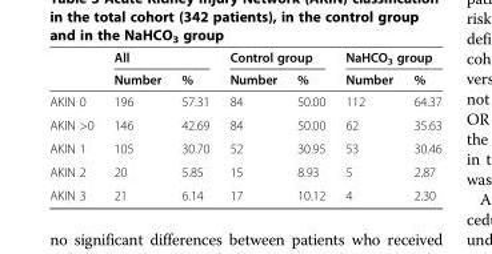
<table><thead><tr><td rowspan="2"></td><td colspan="2">All</td><td colspan="2">Control group</td><td colspan="2">NaHCO<sub>3</sub> group</td></tr><tr><td>Number</td><td>%</td><td>Number</td><td>%</td><td>Number</td><td>%</td></tr></thead><tbody><tr><td>AKIN 0</td><td>196</td><td>57.31</td><td>84</td><td>50.00</td><td>112</td><td>64.37</td></tr><tr><td>AKIN &gt;0</td><td>146</td><td>42.69</td><td>84</td><td>50.00</td><td>62</td><td>35.63</td></tr><tr><td>AKIN 1</td><td>105</td><td>30.70</td><td>52</td><td>30.95</td><td>53</td><td>30.46</td></tr><tr><td>AKIN 2</td><td>20</td><td>5.85</td><td>15</td><td>8.93</td><td>5</td><td>2.87</td></tr><tr><td>AKIN 3</td><td>21</td><td>6.14</td><td>17</td><td>10.12</td><td>4</td><td>2.30</td></tr></tbody></table>